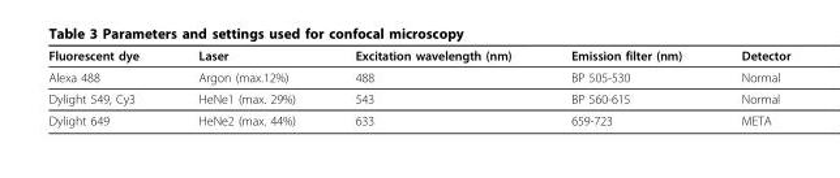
<table><thead><tr><td>Fluorescent dye</td><td>Laser</td><td>Excitation wavelength (nm)</td><td>Emission filter (nm)</td><td>Detector</td></tr></thead><tbody><tr><td>Alexa 488</td><td>Argon (max.12%)</td><td>488</td><td>BP 505-530</td><td>Normal</td></tr><tr><td>Dylight 549, Cy3</td><td>HeNe1 (max. 29%)</td><td>543</td><td>BP 560-615</td><td>Normal</td></tr><tr><td>Dylight 649</td><td>HeNe2 (max. 44%)</td><td>633</td><td>659-723</td><td>META</td></tr></tbody></table>